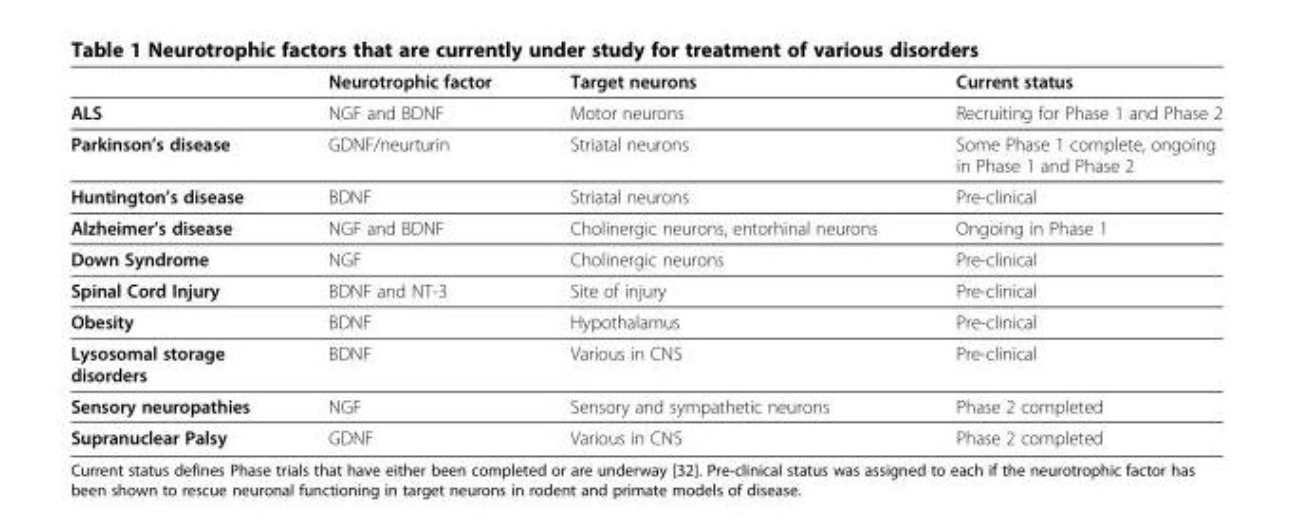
<table><thead><tr><td></td><td>Neurotrophic factor</td><td>Target neurons</td><td>Current status</td></tr></thead><tbody><tr><td>ALS</td><td>NGF and BDNF</td><td>Motor neurons</td><td>Recruiting for Phase 1 and Phase 2</td></tr><tr><td>Parkinson’s disease</td><td>GDNF/neurturin</td><td>Striatal neurons</td><td>Some Phase 1 complete, ongoing in Phase 1 and Phase 2</td></tr><tr><td>Huntington’s disease</td><td>BDNF</td><td>Striatal neurons</td><td>Pre-clinical</td></tr><tr><td>Alzheimer’s disease</td><td>NGF and BDNF</td><td>Cholinergic neurons, entorhinal neurons</td><td>Ongoing in Phase 1</td></tr><tr><td>Down Syndrome</td><td>NGF</td><td>Cholinergic neurons</td><td>Pre-clinical</td></tr><tr><td>Spinal Cord Injury</td><td>BDNF and NT-3</td><td>Site of injury</td><td>Pre-clinical</td></tr><tr><td>Obesity</td><td>BDNF</td><td>Hypothalamus</td><td>Pre-clinical</td></tr><tr><td>Lysosomal storage disorders</td><td>BDNF</td><td>Various in CNS</td><td>Pre-clinical</td></tr><tr><td>Sensory neuropathies</td><td>NGF</td><td>Sensory and sympathetic neurons</td><td>Phase 2 completed</td></tr><tr><td>Supranuclear Palsy</td><td>GDNF</td><td>Various in CNS</td><td>Phase 2 completed</td></tr></tbody></table>